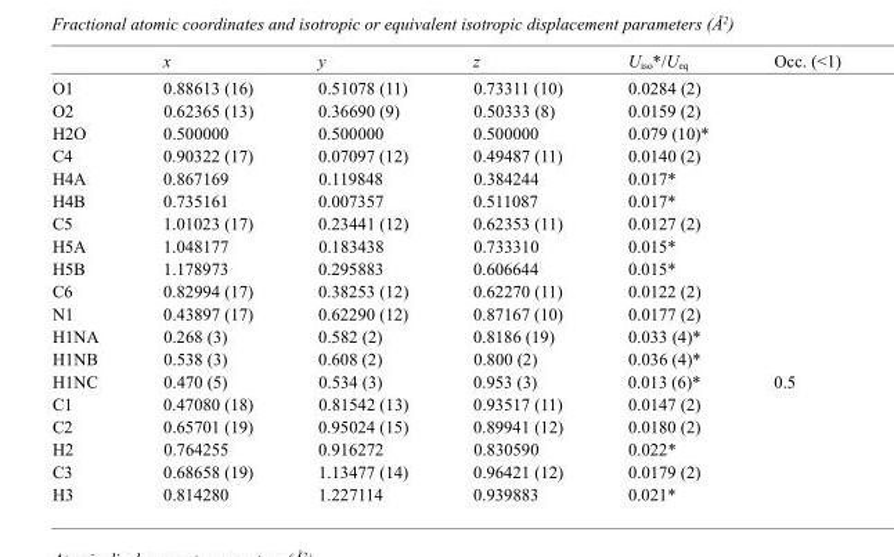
<table><thead><tr><td></td><td>x</td><td>y</td><td>z</td><td>U<sub>iso</sub>*/U<sub>eq</sub></td><td>Occ. (&lt;1)</td></tr></thead><tbody><tr><td>O1</td><td>0.88613 (16)</td><td>0.51078 (11)</td><td>0.73311 (10)</td><td>0.0284 (2)</td><td></td></tr><tr><td>O2</td><td>0.62365 (13)</td><td>0.36690 (9)</td><td>0.50333 (8)</td><td>0.0159 (2)</td><td></td></tr><tr><td>H2O</td><td>0.500000</td><td>0.500000</td><td>0.500000</td><td>0.079 (10)*</td><td></td></tr><tr><td>C4</td><td>0.90322 (17)</td><td>0.07097 (12)</td><td>0.49487 (11)</td><td>0.0140 (2)</td><td></td></tr><tr><td>H4A</td><td>0.867169</td><td>0.119848</td><td>0.384244</td><td>0.017*</td><td></td></tr><tr><td>H4B</td><td>0.735161</td><td>0.007357</td><td>0.511087</td><td>0.017*</td><td></td></tr><tr><td>C5</td><td>1.01023 (17)</td><td>0.23441 (12)</td><td>0.62353 (11)</td><td>0.0127 (2)</td><td></td></tr><tr><td>H5A</td><td>1.048177</td><td>0.183438</td><td>0.733310</td><td>0.015*</td><td></td></tr><tr><td>H5B</td><td>1.178973</td><td>0.295883</td><td>0.606644</td><td>0.015*</td><td></td></tr><tr><td>C6</td><td>0.82994 (17)</td><td>0.38253 (12)</td><td>0.62270 (11)</td><td>0.0122 (2)</td><td></td></tr><tr><td>N1</td><td>0.43897 (17)</td><td>0.62290 (12)</td><td>0.87167 (10)</td><td>0.0177 (2)</td><td></td></tr><tr><td>H1NA</td><td>0.268 (3)</td><td>0.582 (2)</td><td>0.8186 (19)</td><td>0.033 (4)*</td><td></td></tr><tr><td>H1NB</td><td>0.538 (3)</td><td>0.608 (2)</td><td>0.800 (2)</td><td>0.036 (4)*</td><td></td></tr><tr><td>H1NC</td><td>0.470 (5)</td><td>0.534 (3)</td><td>0.953 (3)</td><td>0.013 (6)*</td><td>0.5</td></tr><tr><td>C1</td><td>0.47080 (18)</td><td>0.81542 (13)</td><td>0.93517 (11)</td><td>0.0147 (2)</td><td></td></tr><tr><td>C2</td><td>0.65701 (19)</td><td>0.95024 (15)</td><td>0.89941 (12)</td><td>0.0180 (2)</td><td></td></tr><tr><td>H2</td><td>0.764255</td><td>0.916272</td><td>0.830590</td><td>0.022*</td><td></td></tr><tr><td>C3</td><td>0.68658 (19)</td><td>1.13477 (14)</td><td>0.96421 (12)</td><td>0.0179 (2)</td><td></td></tr><tr><td>H3</td><td>0.814280</td><td>1.227114</td><td>0.939883</td><td>0.021*</td><td></td></tr></tbody></table>